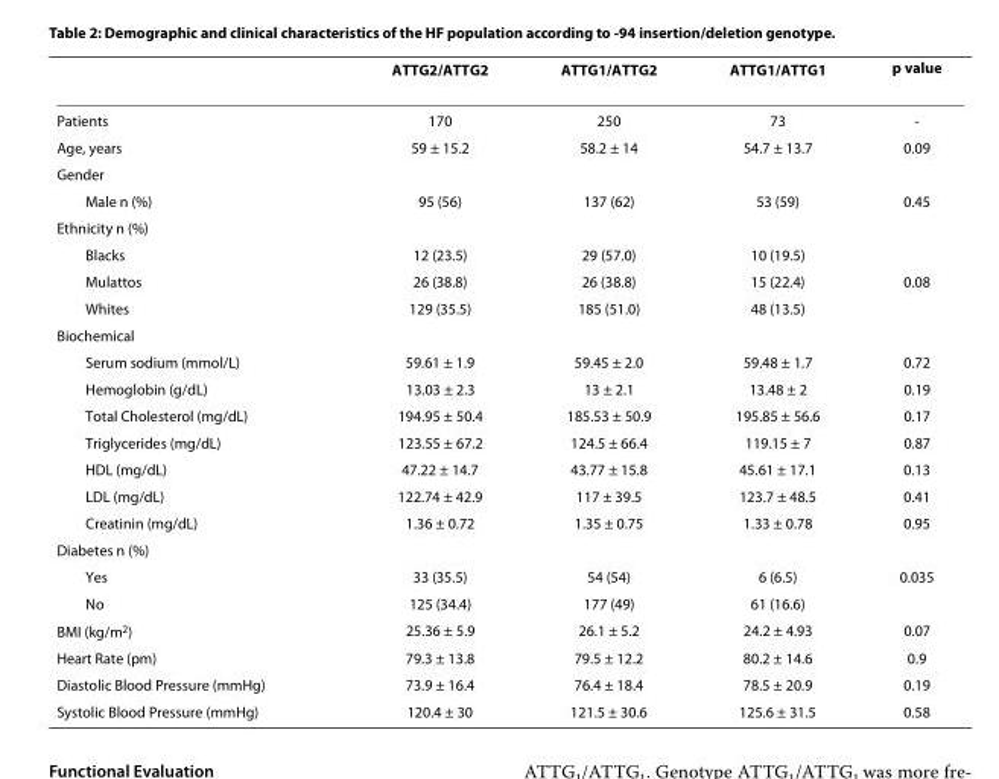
<table><thead><tr><td></td><td>ATTG<sub>2</sub>/ATTG<sub>2</sub></td><td>ATTG<sub>1</sub>/ATTG<sub>2</sub></td><td>ATTG<sub>1</sub>/ATTG<sub>1</sub></td><td>p value</td></tr></thead><tbody><tr><td>Patients</td><td>170</td><td>250</td><td>73</td><td>-</td></tr><tr><td>Age, years</td><td>59 ± 15.2</td><td>58.2 ± 14</td><td>54.7 ± 13.7</td><td>0.09</td></tr><tr><td colspan="5">Gender</td></tr><tr><td>Male n (%)</td><td>95 (56)</td><td>137 (62)</td><td>53 (59)</td><td>0.45</td></tr><tr><td colspan="5">Ethnicity n (%)</td></tr><tr><td>Blacks</td><td>12 (23.5)</td><td>29 (57.0)</td><td>10 (19.5)</td><td></td></tr><tr><td>Mulattos</td><td>26 (38.8)</td><td>26 (38.8)</td><td>15 (22.4)</td><td>0.08</td></tr><tr><td>Whites</td><td>129 (35.5)</td><td>185 (51.0)</td><td>48 (13.5)</td><td></td></tr><tr><td colspan="5">Biochemical</td></tr><tr><td>Serum sodium (mmol/L)</td><td>59.61 ± 1.9</td><td>59.45 ± 2.0</td><td>59.48 ± 1.7</td><td>0.72</td></tr><tr><td>Hemoglobin (g/dL)</td><td>13.03 ± 2.3</td><td>13 ± 2.1</td><td>13.48 ± 2</td><td>0.19</td></tr><tr><td>Total Cholesterol (mg/dL)</td><td>194.95 ± 50.4</td><td>185.53 ± 50.9</td><td>195.85 ± 56.6</td><td>0.17</td></tr><tr><td>Triglycerides (mg/dL)</td><td>123.55 ± 67.2</td><td>124.5 ± 66.4</td><td>119.15 ± 7</td><td>0.87</td></tr><tr><td>HDL (mg/dL)</td><td>47.22 ± 14.7</td><td>43.77 ± 15.8</td><td>45.61 ± 17.1</td><td>0.13</td></tr><tr><td>LDL (mg/dL)</td><td>122.74 ± 42.9</td><td>117 ± 39.5</td><td>123.7 ± 48.5</td><td>0.41</td></tr><tr><td>Creatinin (mg/dL)</td><td>1.36 ± 0.72</td><td>1.35 ± 0.75</td><td>1.33 ± 0.78</td><td>0.95</td></tr><tr><td colspan="5">Diabetes n (%)</td></tr><tr><td>Yes</td><td>33 (35.5)</td><td>54 (54)</td><td>6 (6.5)</td><td>0.035</td></tr><tr><td>No</td><td>125 (34.4)</td><td>177 (49)</td><td>61 (16.6)</td><td></td></tr><tr><td>BMI (kg/m<sup>2</sup>)</td><td>25.36 ± 5.9</td><td>26.1 ± 5.2</td><td>24.2 ± 4.93</td><td>0.07</td></tr><tr><td>Heart Rate (pm)</td><td>79.3 ± 13.8</td><td>79.5 ± 12.2</td><td>80.2 ± 14.6</td><td>0.9</td></tr><tr><td>Diastolic Blood Pressure (mmHg)</td><td>73.9 ± 16.4</td><td>76.4 ± 18.4</td><td>78.5 ± 20.9</td><td>0.19</td></tr><tr><td>Systolic Blood Pressure (mmHg)</td><td>120.4 ± 30</td><td>121.5 ± 30.6</td><td>125.6 ± 31.5</td><td>0.58</td></tr></tbody></table>